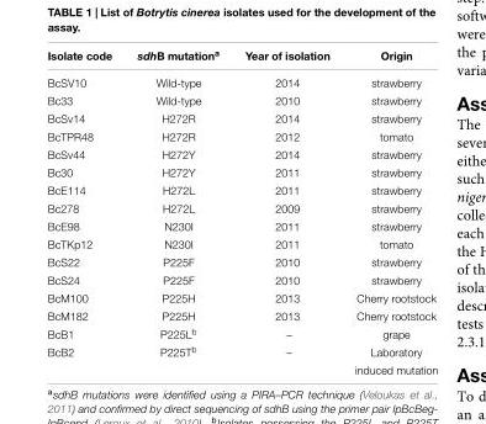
<table><thead><tr><td>Isolate code</td><td>sdhB mutation<sup>a</sup></td><td>Year of isolation</td><td>Origin</td></tr></thead><tbody><tr><td>BcSV10</td><td>Wild-type</td><td>2014</td><td>strawberry</td></tr><tr><td>Bc33</td><td>Wild-type</td><td>2010</td><td>strawberry</td></tr><tr><td>BcSv14</td><td>H272R</td><td>2014</td><td>strawberry</td></tr><tr><td>BcTPR48</td><td>H272R</td><td>2012</td><td>tomato</td></tr><tr><td>BcSv44</td><td>H272Y</td><td>2014</td><td>strawberry</td></tr><tr><td>Bc30</td><td>H272Y</td><td>2011</td><td>strawberry</td></tr><tr><td>BcE114</td><td>H272L</td><td>2011</td><td>strawberry</td></tr><tr><td>Bc278</td><td>H272L</td><td>2009</td><td>strawberry</td></tr><tr><td>BcE98</td><td>N230I</td><td>2011</td><td>strawberry</td></tr><tr><td>BcTKp12</td><td>N230I</td><td>2011</td><td>tomato</td></tr><tr><td>BcS22</td><td>P225F</td><td>2010</td><td>strawberry</td></tr><tr><td>BcS24</td><td>P225F</td><td>2010</td><td>strawberry</td></tr><tr><td>BcM100</td><td>P225H</td><td>2013</td><td>Cherry rootstock</td></tr><tr><td>BcM182</td><td>P225H</td><td>2013</td><td>Cherry rootstock</td></tr><tr><td>BcB1</td><td>P225L<sup>b</sup></td><td>–</td><td>grape</td></tr><tr><td rowspan="2">BcB2</td><td>P225T<sup>b</sup></td><td>–</td><td>Laboratory</td></tr><tr><td></td><td></td><td>induced mutation</td></tr></tbody></table>